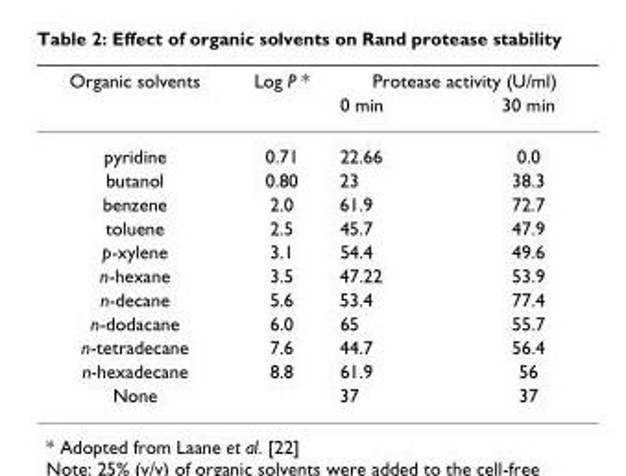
<table><thead><tr><td rowspan="2">Organic solvents</td><td rowspan="2">Log P *</td><td colspan="2">Protease activity (U/ml)</td></tr><tr><td>0 min</td><td>30 min</td></tr></thead><tbody><tr><td>pyridine</td><td>0.71</td><td>22.66</td><td>0.0</td></tr><tr><td>butanol</td><td>0.80</td><td>23</td><td>38.3</td></tr><tr><td>benzene</td><td>2.0</td><td>61.9</td><td>72.7</td></tr><tr><td>toluene</td><td>2.5</td><td>45.7</td><td>47.9</td></tr><tr><td>p-xylene</td><td>3.1</td><td>54.4</td><td>49.6</td></tr><tr><td>n-hexane</td><td>3.5</td><td>47.22</td><td>53.9</td></tr><tr><td>n-decane</td><td>5.6</td><td>53.4</td><td>77.4</td></tr><tr><td>n-dodacane</td><td>6.0</td><td>65</td><td>55.7</td></tr><tr><td>n-tetradecane</td><td>7.6</td><td>44.7</td><td>56.4</td></tr><tr><td>n-hexadecane</td><td>8.8</td><td>61.9</td><td>56</td></tr><tr><td>None</td><td></td><td>37</td><td>37</td></tr></tbody></table>